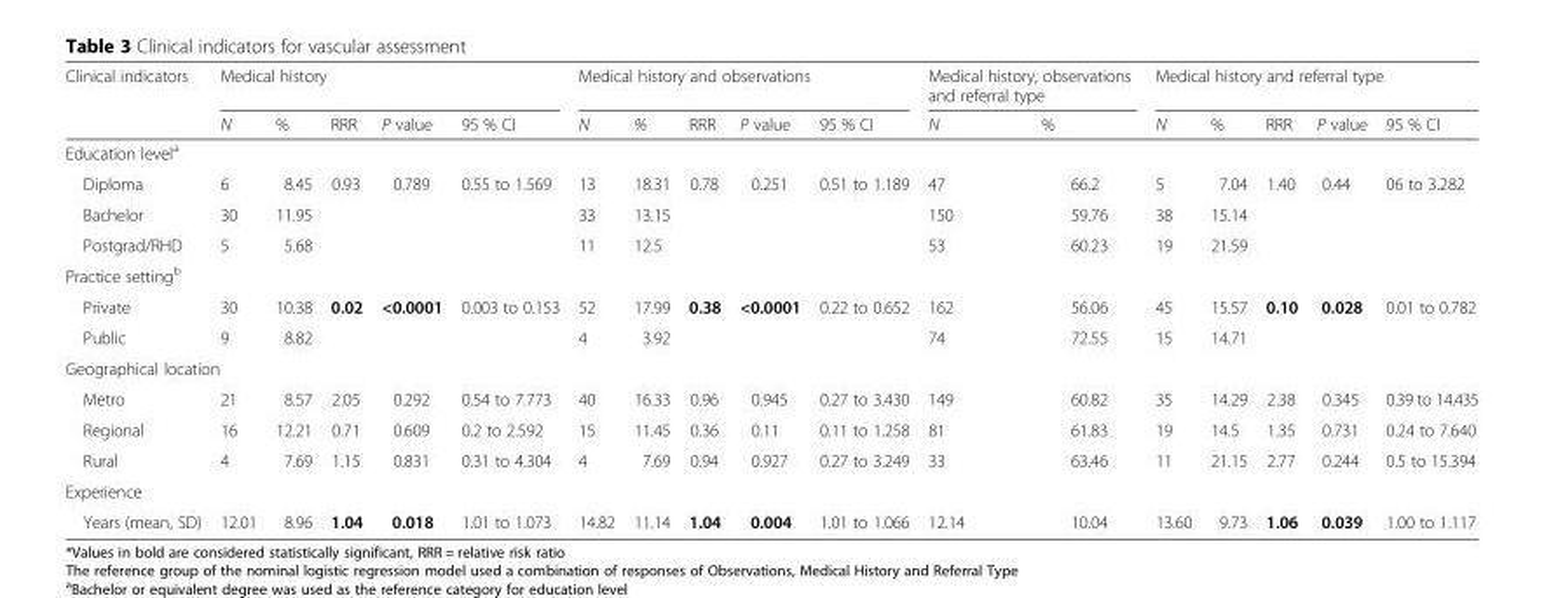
<table><thead><tr><td rowspan="2">Clinical indicators</td><td colspan="5">Medical history</td><td colspan="5">Medical history and observations</td><td colspan="2">Medical history, observations and referral type</td><td colspan="5">Medical history and referral type</td></tr><tr><td>N</td><td>%</td><td>RRR</td><td>P value</td><td>95 % CI</td><td>N</td><td>%</td><td>RRR</td><td>P value</td><td>95 % CI</td><td>N</td><td>%</td><td>N</td><td>%</td><td>RRR</td><td>P value</td><td>95 % CI</td></tr></thead><tbody><tr><td colspan="18">Education level<sup>a</sup></td></tr><tr><td>Diploma</td><td>6</td><td>8.45</td><td>0.93</td><td>0.789</td><td>0.55 to 1.569</td><td>13</td><td>18.31</td><td>0.78</td><td>0.251</td><td>0.51 to 1.189</td><td>47</td><td>66.2</td><td>5</td><td>7.04</td><td>1.40</td><td>0.44</td><td>06 to 3.282</td></tr><tr><td>Bachelor</td><td>30</td><td>11.95</td><td></td><td></td><td></td><td>33</td><td>13.15</td><td></td><td></td><td></td><td>150</td><td>59.76</td><td>38</td><td>15.14</td><td></td><td></td><td></td></tr><tr><td>Postgrad/RHD</td><td>5</td><td>5.68</td><td></td><td></td><td></td><td>11</td><td>12.5</td><td></td><td></td><td></td><td>53</td><td>60.23</td><td>19</td><td>21.59</td><td></td><td></td><td></td></tr><tr><td colspan="18">Practice setting<sup>b</sup></td></tr><tr><td>Private</td><td>30</td><td>10.38</td><td>0.02</td><td>&lt;0.0001</td><td>0.003 to 0.153</td><td>52</td><td>17.99</td><td>0.38</td><td>&lt;0.0001</td><td>0.22 to 0.652</td><td>162</td><td>56.06</td><td>45</td><td>15.57</td><td>0.10</td><td>0.028</td><td>0.01 to 0.782</td></tr><tr><td>Public</td><td>9</td><td>8.82</td><td></td><td></td><td></td><td>4</td><td>3.92</td><td></td><td></td><td></td><td>74</td><td>72.55</td><td>15</td><td>14.71</td><td></td><td></td><td></td></tr><tr><td colspan="18">Geographical location</td></tr><tr><td>Metro</td><td>21</td><td>8.57</td><td>2.05</td><td>0.292</td><td>0.54 to 7.773</td><td>40</td><td>16.33</td><td>0.96</td><td>0.945</td><td>0.27 to 3.430</td><td>149</td><td>60.82</td><td>35</td><td>14.29</td><td>2.38</td><td>0.345</td><td>0.39 to 14.435</td></tr><tr><td>Regional</td><td>16</td><td>12.21</td><td>0.71</td><td>0.609</td><td>0.2 to 2.592</td><td>15</td><td>11.45</td><td>0.36</td><td>0.11</td><td>0.11 to 1.258</td><td>81</td><td>61.83</td><td>19</td><td>14.5</td><td>1.35</td><td>0.731</td><td>0.24 to 7.640</td></tr><tr><td>Rural</td><td>4</td><td>7.69</td><td>1.15</td><td>0.831</td><td>0.31 to 4.304</td><td>4</td><td>7.69</td><td>0.94</td><td>0.927</td><td>0.27 to 3.249</td><td>33</td><td>63.46</td><td>11</td><td>21.15</td><td>2.77</td><td>0.244</td><td>0.5 to 15.394</td></tr><tr><td colspan="18">Experience</td></tr><tr><td>Years (mean, SD)</td><td>12.01</td><td>8.96</td><td>1.04</td><td>0.018</td><td>1.01 to 1.073</td><td>14.82</td><td>11.14</td><td>1.04</td><td>0.004</td><td>1.01 to 1.066</td><td>12.14</td><td>10.04</td><td>13.60</td><td>9.73</td><td>1.06</td><td>0.039</td><td>1.00 to 1.117</td></tr></tbody></table>